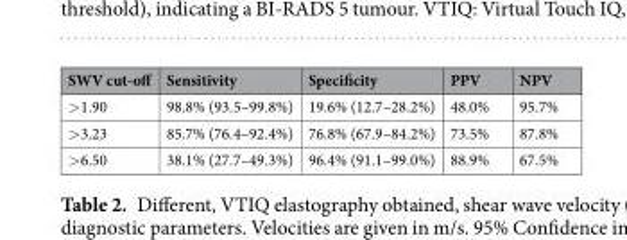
<table><thead><tr><td>SWV cut-off</td><td>Sensitivity</td><td>Specificity</td><td>PPV</td><td>NPV</td></tr></thead><tbody><tr><td>&gt;1.90</td><td>98.8% (93.5–99.8%)</td><td>19.6% (12.7–28.2%)</td><td>48.0%</td><td>95.7%</td></tr><tr><td>&gt;3.23</td><td>85.7% (76.4–92.4%)</td><td>76.8% (67.9–84.2%)</td><td>73.5%</td><td>87.8%</td></tr><tr><td>&gt;6.50</td><td>38.1% (27.7–49.3%)</td><td>96.4% (91.1–99.0%)</td><td>88.9%</td><td>67.5%</td></tr></tbody></table>